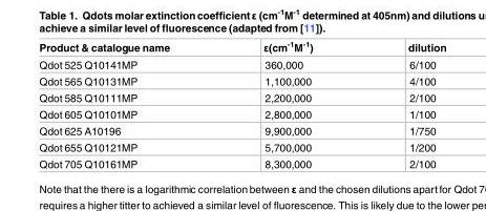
<table><thead><tr><td>Product &amp; catalogue name</td><td>ε(cm<sup>-1</sup>M<sup>-1</sup>)</td><td>dilution</td></tr></thead><tbody><tr><td>Qdot 525 Q10141MP</td><td>360,000</td><td>6/100</td></tr><tr><td>Qdot 565 Q10131MP</td><td>1,100,000</td><td>4/100</td></tr><tr><td>Qdot 585 Q10111MP</td><td>2,200,000</td><td>2/100</td></tr><tr><td>Qdot 605 Q10101MP</td><td>2,800,000</td><td>1/100</td></tr><tr><td>Qdot 625 A10196</td><td>9,900,000</td><td>1/750</td></tr><tr><td>Qdot 655 Q10121MP</td><td>5,700,000</td><td>1/200</td></tr><tr><td>Qdot 705 Q10161MP</td><td>8,300,000</td><td>2/100</td></tr></tbody></table>